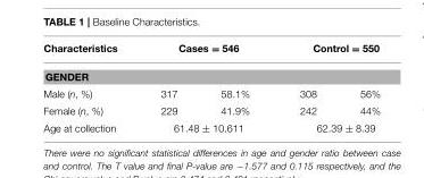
<table><thead><tr><td>Characteristics</td><td colspan="2">Cases = 546</td><td colspan="2">Control = 550</td></tr><tr><td colspan="5">GENDER</td></tr><tr><td>Male (n, %)</td><td>317</td><td>58.1%</td><td>308</td><td>56%</td></tr></thead><tbody><tr><td>Female (n, %)</td><td>229</td><td>41.9%</td><td>242</td><td>44%</td></tr><tr><td>Age at collection</td><td colspan="2">61.48 ± 10.611</td><td colspan="2">62.39 ± 8.39</td></tr></tbody></table>